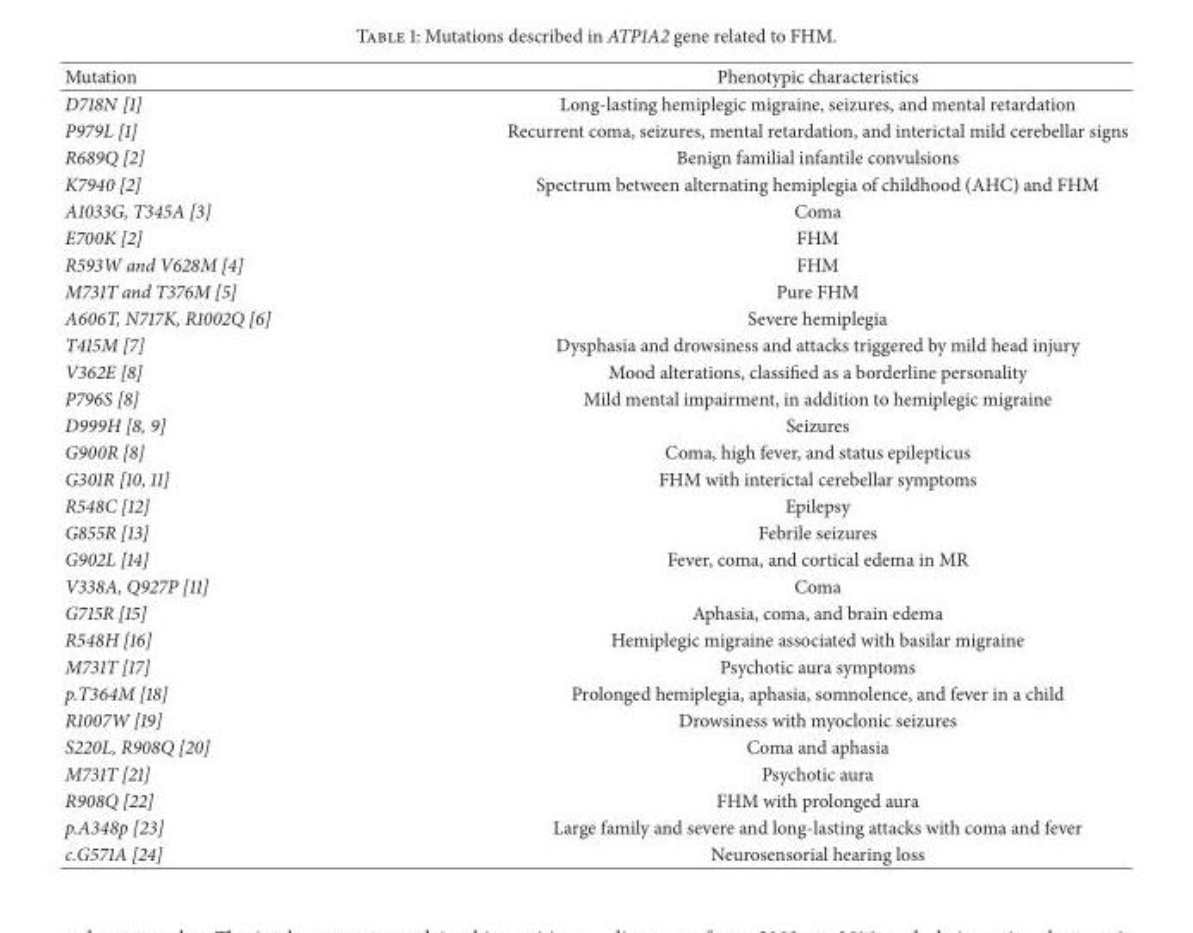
<table><thead><tr><td>Mutation</td><td>Phenotypic characteristics</td></tr></thead><tbody><tr><td>D718N [1]</td><td>Long-lasting hemiplegic migraine, seizures, and mental retardation</td></tr><tr><td>P979L [1]</td><td>Recurrent coma, seizures, mental retardation, and interictal mild cerebellar signs</td></tr><tr><td>R689Q [2]</td><td>Benign familial infantile convulsions</td></tr><tr><td>K7940 [2]</td><td>Spectrum between alternating hemiplegia of childhood (AHC) and FHM</td></tr><tr><td>A1033G, T345A [3]</td><td>Coma</td></tr><tr><td>E700K [2]</td><td>FHM</td></tr><tr><td>R593W and V628M [4]</td><td>FHM</td></tr><tr><td>M731T and T376M [5]</td><td>Pure FHM</td></tr><tr><td>A606T, N717K, R1002Q [6]</td><td>Severe hemiplegia</td></tr><tr><td>T415M [7]</td><td>Dysphasia and drowsiness and attacks triggered by mild head injury</td></tr><tr><td>V362E [8]</td><td>Mood alterations, classified as a borderline personality</td></tr><tr><td>P796S [8]</td><td>Mild mental impairment, in addition to hemiplegic migraine</td></tr><tr><td>D999H [8, 9]</td><td>Seizures</td></tr><tr><td>G900R [8]</td><td>Coma, high fever, and status epilepticus</td></tr><tr><td>G301R [10, 11]</td><td>FHM with interictal cerebellar symptoms</td></tr><tr><td>R548C [12]</td><td>Epilepsy</td></tr><tr><td>G855R [13]</td><td>Febrile seizures</td></tr><tr><td>G902L [14]</td><td>Fever, coma, and cortical edema in MR</td></tr><tr><td>V338A, Q927P [11]</td><td>Coma</td></tr><tr><td>G715R [15]</td><td>Aphasia, coma, and brain edema</td></tr><tr><td>R548H [16]</td><td>Hemiplegic migraine associated with basilar migraine</td></tr><tr><td>M731T [17]</td><td>Psychotic aura symptoms</td></tr><tr><td>p.T364M [18]</td><td>Prolonged hemiplegia, aphasia, somnolence, and fever in a child</td></tr><tr><td>R1007W [19]</td><td>Drowsiness with myoclonic seizures</td></tr><tr><td>S220L, R908Q [20]</td><td>Coma and aphasia</td></tr><tr><td>M731T [21]</td><td>Psychotic aura</td></tr><tr><td>R908Q [22]</td><td>FHM with prolonged aura</td></tr><tr><td>p.A348p [23]</td><td>Large family and severe and long-lasting attacks with coma and fever</td></tr><tr><td>c.G571A [24]</td><td>Neurosensorial hearing loss</td></tr></tbody></table>